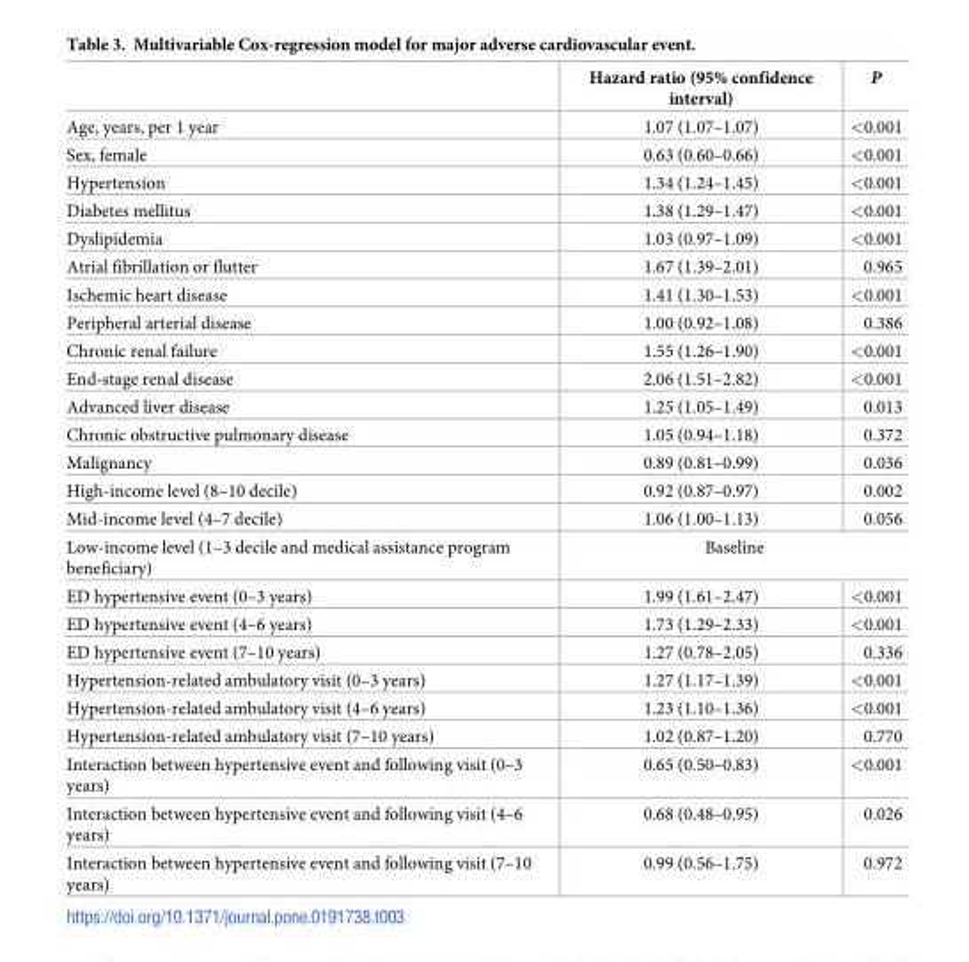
<table><thead><tr><td></td><td>Hazard ratio (95% confidence interval)</td><td>P</td></tr></thead><tbody><tr><td>Age, years, per 1 year</td><td>1.07 (1.07–1.07)</td><td>&lt;0.001</td></tr><tr><td>Sex, female</td><td>0.63 (0.60–0.66)</td><td>&lt;0.001</td></tr><tr><td>Hypertension</td><td>1.34 (1.24–1.45)</td><td>&lt;0.001</td></tr><tr><td>Diabetes mellitus</td><td>1.38 (1.29–1.47)</td><td>&lt;0.001</td></tr><tr><td>Dyslipidemia</td><td>1.03 (0.97–1.09)</td><td>&lt;0.001</td></tr><tr><td>Atrial fibrillation or flutter</td><td>1.67 (1.39–2.01)</td><td>0.965</td></tr><tr><td>Ischemic heart disease</td><td>1.41 (1.30–1.53)</td><td>&lt;0.001</td></tr><tr><td>Peripheral arterial disease</td><td>1.00 (0.92–1.08)</td><td>0.386</td></tr><tr><td>Chronic renal failure</td><td>1.55 (1.26–1.90)</td><td>&lt;0.001</td></tr><tr><td>End-stage renal disease</td><td>2.06 (1.51–2.82)</td><td>&lt;0.001</td></tr><tr><td>Advanced liver disease</td><td>1.25 (1.05–1.49)</td><td>0.013</td></tr><tr><td>Chronic obstructive pulmonary disease</td><td>1.05 (0.94–1.18)</td><td>0.372</td></tr><tr><td>Malignancy</td><td>0.89 (0.81–0.99)</td><td>0.036</td></tr><tr><td>High-income level (8–10 decile)</td><td>0.92 (0.87–0.97)</td><td>0.002</td></tr><tr><td>Mid-income level (4–7 decile)</td><td>1.06 (1.00–1.13)</td><td>0.056</td></tr><tr><td>Low-income level (1–3 decile and medical assistance program beneficiary)</td><td colspan="2">Baseline</td></tr><tr><td>ED hypertensive event (0–3 years)</td><td>1.99 (1.61–2.47)</td><td>&lt;0.001</td></tr><tr><td>ED hypertensive event (4–6 years)</td><td>1.73 (1.29–2.33)</td><td>&lt;0.001</td></tr><tr><td>ED hypertensive event (7–10 years)</td><td>1.27 (0.78–2.05)</td><td>0.336</td></tr><tr><td>Hypertension-related ambulatory visit (0–3 years)</td><td>1.27 (1.17–1.39)</td><td>&lt;0.001</td></tr><tr><td>Hypertension-related ambulatory visit (4–6 years)</td><td>1.23 (1.10–1.36)</td><td>&lt;0.001</td></tr><tr><td>Hypertension-related ambulatory visit (7–10 years)</td><td>1.02 (0.87–1.20)</td><td>0.770</td></tr><tr><td>Interaction between hypertensive event and following visit (0–3 years)</td><td>0.65 (0.50–0.83)</td><td>&lt;0.001</td></tr><tr><td>Interaction between hypertensive event and following visit (4–6 years)</td><td>0.68 (0.48–0.95)</td><td>0.026</td></tr><tr><td>Interaction between hypertensive event and following visit (7–10 years)</td><td>0.99 (0.56–1.75)</td><td>0.972</td></tr></tbody></table>